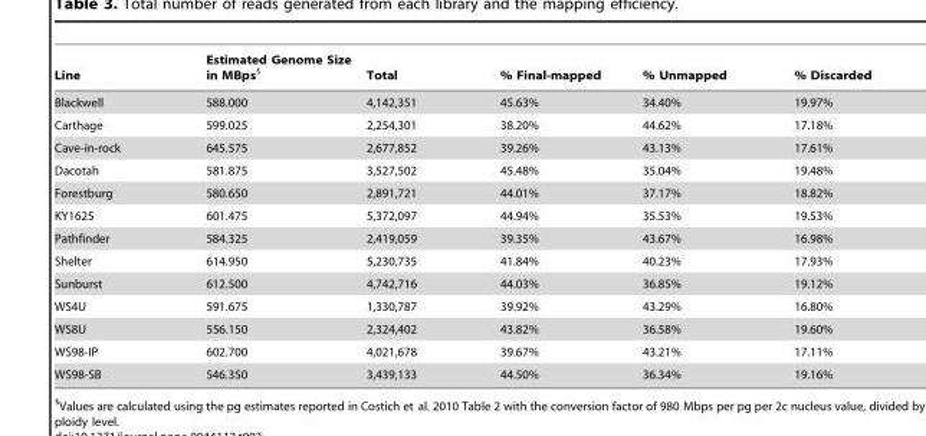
<table><thead><tr><td>Line</td><td>Estimated Genome Size in MBps§</td><td>Total</td><td>% Final-mapped</td><td>% Unmapped</td><td>% Discarded</td></tr></thead><tbody><tr><td>Blackwell</td><td>588.000</td><td>4,142,351</td><td>45.63%</td><td>34.40%</td><td>19.97%</td></tr><tr><td>Carthage</td><td>599.025</td><td>2,254,301</td><td>38.20%</td><td>44.62%</td><td>17.18%</td></tr><tr><td>Cave-in-rock</td><td>645.575</td><td>2,677,852</td><td>39.26%</td><td>43.13%</td><td>17.61%</td></tr><tr><td>Dacotah</td><td>581.875</td><td>3,527,502</td><td>45.48%</td><td>35.04%</td><td>19.48%</td></tr><tr><td>Forestburg</td><td>580.650</td><td>2,891,721</td><td>44.01%</td><td>37.17%</td><td>18.82%</td></tr><tr><td>KY1625</td><td>601.475</td><td>5,372,097</td><td>44.94%</td><td>35.53%</td><td>19.53%</td></tr><tr><td>Pathfinder</td><td>584.325</td><td>2,419,059</td><td>39.35%</td><td>43.67%</td><td>16.98%</td></tr><tr><td>Shelter</td><td>614.950</td><td>5,230,735</td><td>41.84%</td><td>40.23%</td><td>17.93%</td></tr><tr><td>Sunburst</td><td>612.500</td><td>4,742,716</td><td>44.03%</td><td>36.85%</td><td>19.12%</td></tr><tr><td>WS4U</td><td>591.675</td><td>1,330,787</td><td>39.92%</td><td>43.29%</td><td>16.80%</td></tr><tr><td>WS8U</td><td>556.150</td><td>2,324,402</td><td>43.82%</td><td>36.58%</td><td>19.60%</td></tr><tr><td>WS98-IP</td><td>602.700</td><td>4,021,678</td><td>39.67%</td><td>43.21%</td><td>17.11%</td></tr><tr><td>WS98-SB</td><td>546.350</td><td>3,439,133</td><td>44.50%</td><td>36.34%</td><td>19.16%</td></tr></tbody></table>